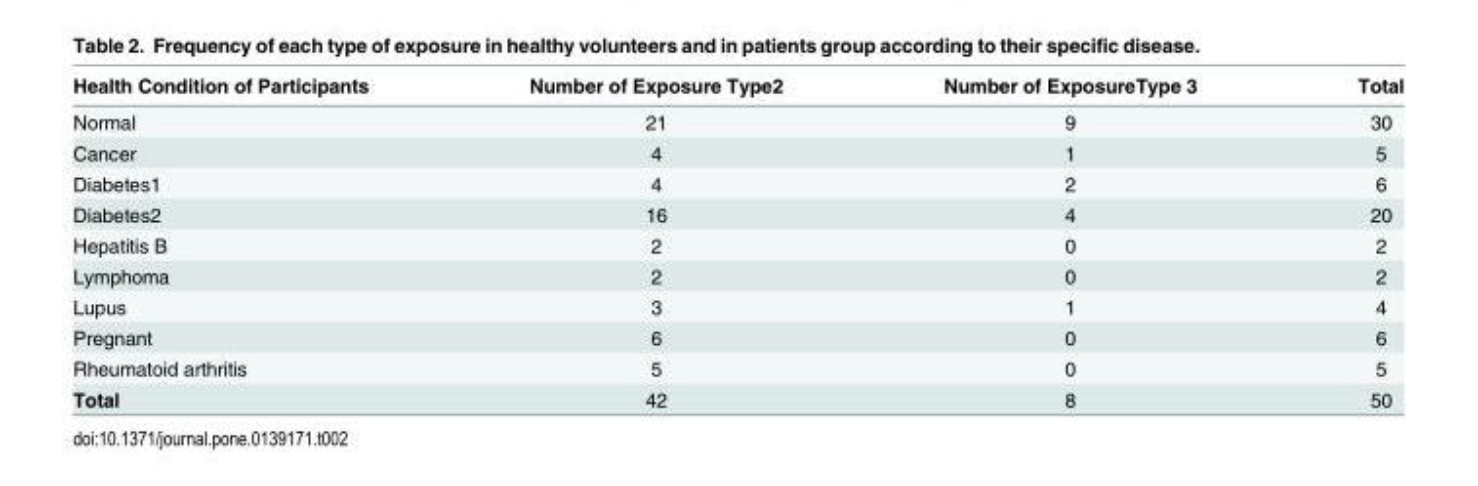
<table><thead><tr><td>Health Condition of Participants</td><td>Number of Exposure Type2</td><td>Number of ExposureType 3</td><td>Total</td></tr></thead><tbody><tr><td>Normal</td><td>21</td><td>9</td><td>30</td></tr><tr><td>Cancer</td><td>4</td><td>1</td><td>5</td></tr><tr><td>Diabetes1</td><td>4</td><td>2</td><td>6</td></tr><tr><td>Diabetes2</td><td>16</td><td>4</td><td>20</td></tr><tr><td>Hepatitis B</td><td>2</td><td>0</td><td>2</td></tr><tr><td>Lymphoma</td><td>2</td><td>0</td><td>2</td></tr><tr><td>Lupus</td><td>3</td><td>1</td><td>4</td></tr><tr><td>Pregnant</td><td>6</td><td>0</td><td>6</td></tr><tr><td>Rheumatoid arthritis</td><td>5</td><td>0</td><td>5</td></tr><tr><td>Total</td><td>42</td><td>8</td><td>50</td></tr></tbody></table>